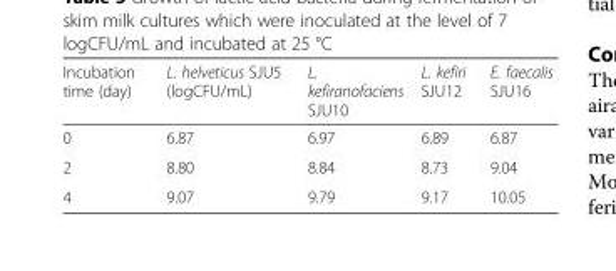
<table><thead><tr><td>Incubation time (day)</td><td>L. helveticus SJU5 (logCFU/mL)</td><td>L. kefiranofaciens SJU10</td><td>L. kefiri SJU12</td><td>E. faecalis SJU16</td></tr></thead><tbody><tr><td>0</td><td>6.87</td><td>6.97</td><td>6.89</td><td>6.87</td></tr><tr><td>2</td><td>8.80</td><td>8.84</td><td>8.73</td><td>9.04</td></tr><tr><td>4</td><td>9.07</td><td>9.79</td><td>9.17</td><td>10.05</td></tr></tbody></table>